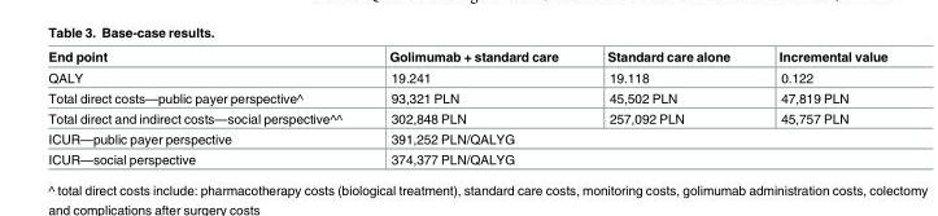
<table><thead><tr><td>End point</td><td>Golimumab + standard care</td><td>Standard care alone</td><td>Incremental value</td></tr></thead><tbody><tr><td>QALY</td><td>19.241</td><td>19.118</td><td>0.122</td></tr><tr><td>Total direct costs—public payer perspective^</td><td>93,321 PLN</td><td>45,502 PLN</td><td>47,819 PLN</td></tr><tr><td>Total direct and indirect costs—social perspective^^</td><td>302,848 PLN</td><td>257,092 PLN</td><td>45,757 PLN</td></tr><tr><td>ICUR—public payer perspective</td><td colspan="3">391,252 PLN/QALYG</td></tr><tr><td>ICUR—social perspective</td><td colspan="3">374,377 PLN/QALYG</td></tr></tbody></table>